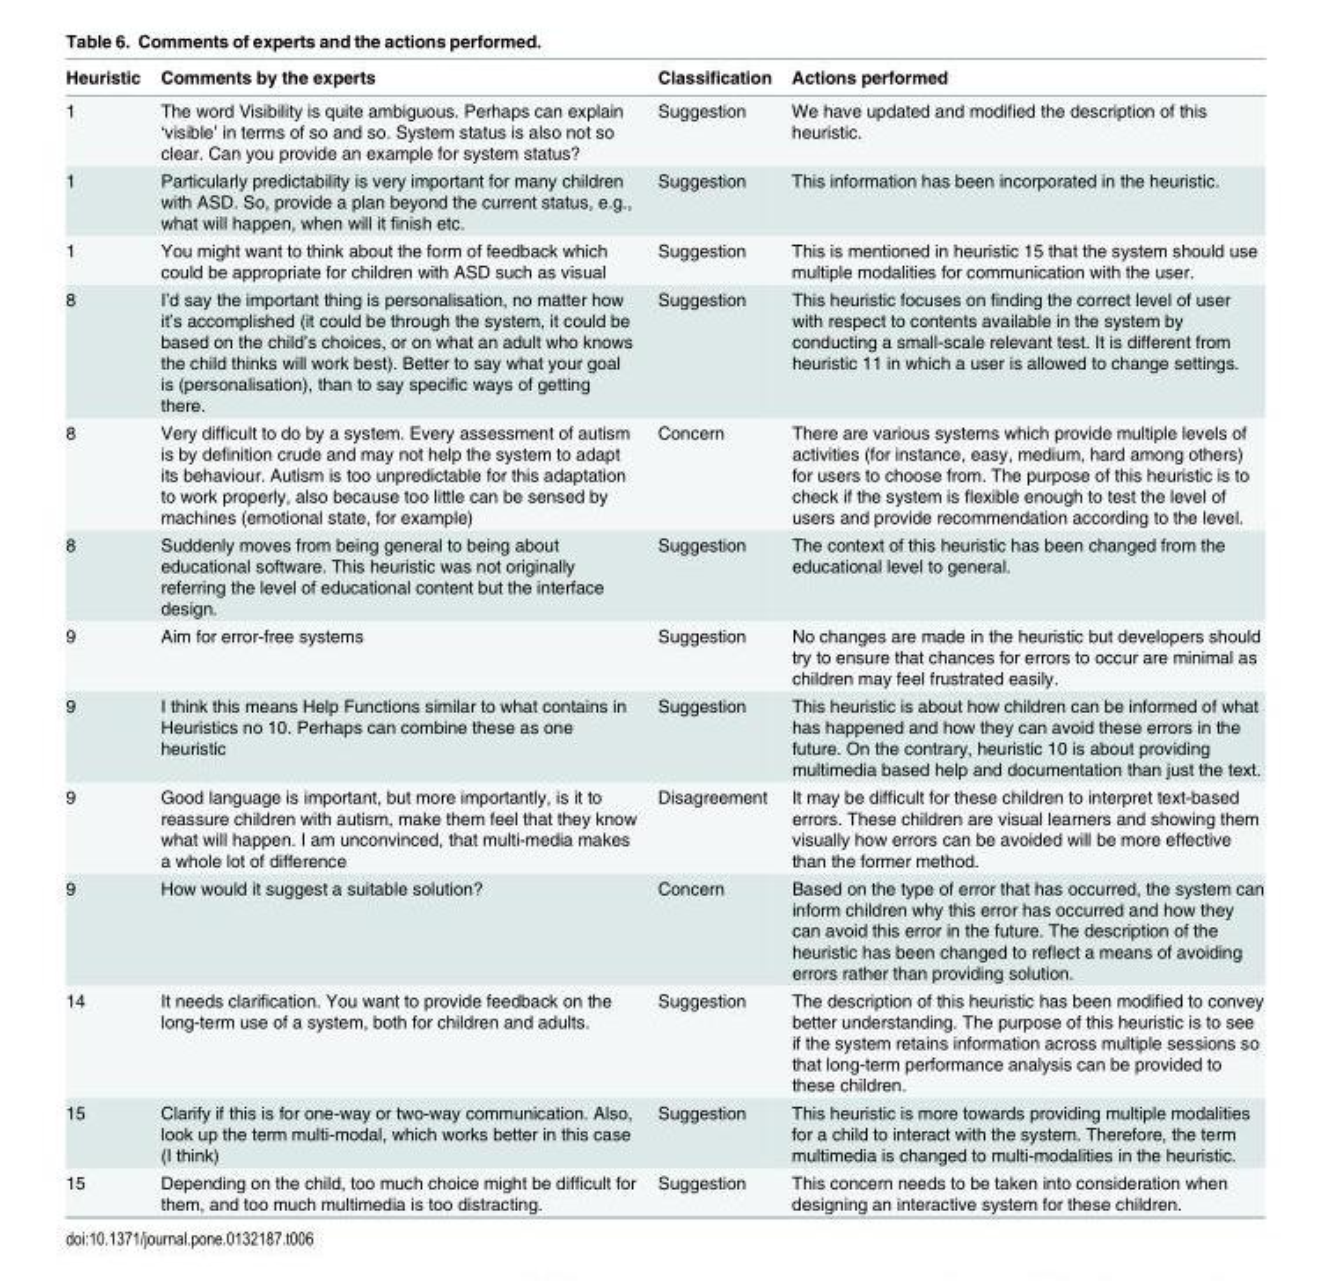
<table><thead><tr><td>Heuristic</td><td>Comments by the experts</td><td>Classification</td><td>Actions performed</td></tr></thead><tbody><tr><td>1</td><td>The word Visibility is quite ambiguous. Perhaps can explain ‘visible’ in terms of so and so. System status is also not so clear. Can you provide an example for system status?</td><td>Suggestion</td><td>We have updated and modified the description of this heuristic.</td></tr><tr><td>1</td><td>Particularly predictability is very important for many children with ASD. So, provide a plan beyond the current status, e.g., what will happen, when will it finish etc.</td><td>Suggestion</td><td>This information has been incorporated in the heuristic.</td></tr><tr><td>1</td><td>You might want to think about the form of feedback which could be appropriate for children with ASD such as visual</td><td>Suggestion</td><td>This is mentioned in heuristic 15 that the system should use multiple modalities for communication with the user.</td></tr><tr><td>8</td><td>I’d say the important thing is personalisation, no matter how it’s accomplished (it could be through the system, it could be based on the child’s choices, or on what an adult who knows the child thinks will work best). Better to say what your goal is (personalisation), than to say specific ways of getting there.</td><td>Suggestion</td><td>This heuristic focuses on finding the correct level of user with respect to contents available in the system by conducting a small-scale relevant test. It is different from heuristic 11 in which a user is allowed to change settings.</td></tr><tr><td>8</td><td>Very difficult to do by a system. Every assessment of autism is by definition crude and may not help the system to adapt its behaviour. Autism is too unpredictable for this adaptation to work properly, also because too little can be sensed by machines (emotional state, for example)</td><td>Concern</td><td>There are various systems which provide multiple levels of activities (for instance, easy, medium, hard among others) for users to choose from. The purpose of this heuristic is to check if the system is flexible enough to test the level of users and provide recommendation according to the level.</td></tr><tr><td>8</td><td>Suddenly moves from being general to being about educational software. This heuristic was not originally referring the level of educational content but the interface design.</td><td>Suggestion</td><td>The context of this heuristic has been changed from the educational level to general.</td></tr><tr><td>9</td><td>Aim for error-free systems</td><td>Suggestion</td><td>No changes are made in the heuristic but developers should try to ensure that chances for errors to occur are minimal as children may feel frustrated easily.</td></tr><tr><td>9</td><td>I think this means Help Functions similar to what contains in Heuristics no 10. Perhaps can combine these as one heuristic</td><td>Suggestion</td><td>This heuristic is about how children can be informed of what has happened and how they can avoid these errors in the future. On the contrary, heuristic 10 is about providing multimedia based help and documentation than just the text.</td></tr><tr><td>9</td><td>Good language is important, but more importantly, is it to reassure children with autism, make them feel that they know what will happen. I am unconvinced, that multi-media makes a whole lot of difference</td><td>Disagreement</td><td>It may be difficult for these children to interpret text-based errors. These children are visual learners and showing them visually how errors can be avoided will be more effective than the former method.</td></tr><tr><td>9</td><td>How would it suggest a suitable solution?</td><td>Concern</td><td>Based on the type of error that has occurred, the system can inform children why this error has occurred and how they can avoid this error in the future. The description of the heuristic has been changed to reflect a means of avoiding errors rather than providing solution.</td></tr><tr><td>14</td><td>It needs clarification. You want to provide feedback on the long-term use of a system, both for children and adults.</td><td>Suggestion</td><td>The description of this heuristic has been modified to convey better understanding. The purpose of this heuristic is to see if the system retains information across multiple sessions so that long-term performance analysis can be provided to these children.</td></tr><tr><td>15</td><td>Clarify if this is for one-way or two-way communication. Also, look up the term multi-modal, which works better in this case (I think)</td><td>Suggestion</td><td>This heuristic is more towards providing multiple modalities for a child to interact with the system. Therefore, the term multimedia is changed to multi-modalities in the heuristic.</td></tr><tr><td>15</td><td>Depending on the child, too much choice might be difficult for them, and too much multimedia is too distracting.</td><td>Suggestion</td><td>This concern needs to be taken into consideration when designing an interactive system for these children.</td></tr></tbody></table>